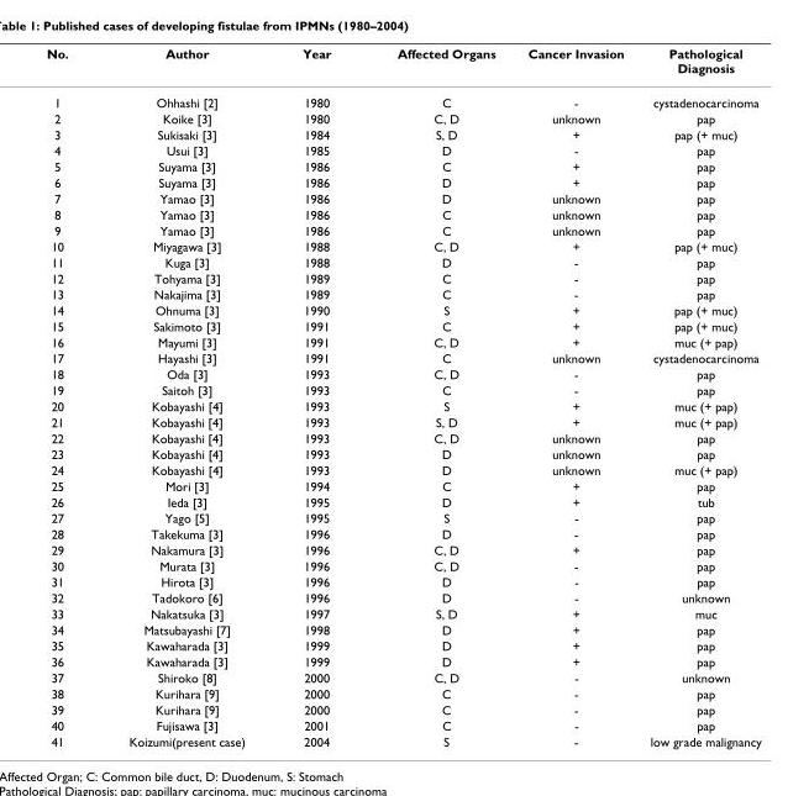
<table><thead><tr><td>No.</td><td>Author</td><td>Year</td><td>Affected Organs</td><td>Cancer Invasion</td><td>Pathological Diagnosis</td></tr></thead><tbody><tr><td>1</td><td>Ohhashi [2]</td><td>1980</td><td>C</td><td>-</td><td>cystadenocarcinoma</td></tr><tr><td>2</td><td>Koike [3]</td><td>1980</td><td>C, D</td><td>unknown</td><td>pap</td></tr><tr><td>3</td><td>Sukisaki [3]</td><td>1984</td><td>S, D</td><td>+</td><td>pap (+ muc)</td></tr><tr><td>4</td><td>Usui [3]</td><td>1985</td><td>D</td><td>-</td><td>pap</td></tr><tr><td>5</td><td>Suyama [3]</td><td>1986</td><td>C</td><td>+</td><td>pap</td></tr><tr><td>6</td><td>Suyama [3]</td><td>1986</td><td>D</td><td>+</td><td>pap</td></tr><tr><td>7</td><td>Yamao [3]</td><td>1986</td><td>D</td><td>unknown</td><td>pap</td></tr><tr><td>8</td><td>Yamao [3]</td><td>1986</td><td>C</td><td>unknown</td><td>pap</td></tr><tr><td>9</td><td>Yamao [3]</td><td>1986</td><td>C</td><td>unknown</td><td>pap</td></tr><tr><td>10</td><td>Miyagawa [3]</td><td>1988</td><td>C, D</td><td>+</td><td>pap (+ muc)</td></tr><tr><td>11</td><td>Kuga [3]</td><td>1988</td><td>D</td><td>-</td><td>pap</td></tr><tr><td>12</td><td>Tohyama [3]</td><td>1989</td><td>C</td><td>-</td><td>pap</td></tr><tr><td>13</td><td>Nakajima [3]</td><td>1989</td><td>C</td><td>-</td><td>pap</td></tr><tr><td>14</td><td>Ohnuma [3]</td><td>1990</td><td>S</td><td>+</td><td>pap (+ muc)</td></tr><tr><td>15</td><td>Sakimoto [3]</td><td>1991</td><td>C</td><td>+</td><td>pap (+ muc)</td></tr><tr><td>16</td><td>Mayumi [3]</td><td>1991</td><td>C, D</td><td>+</td><td>muc (+ pap)</td></tr><tr><td>17</td><td>Hayashi [3]</td><td>1991</td><td>C</td><td>unknown</td><td>cystadenocarcinoma</td></tr><tr><td>18</td><td>Oda [3]</td><td>1993</td><td>C, D</td><td>-</td><td>pap</td></tr><tr><td>19</td><td>Saitoh [3]</td><td>1993</td><td>C</td><td>-</td><td>pap</td></tr><tr><td>20</td><td>Kobayashi [4]</td><td>1993</td><td>S</td><td>+</td><td>muc (+ pap)</td></tr><tr><td>21</td><td>Kobayashi [4]</td><td>1993</td><td>S, D</td><td>+</td><td>muc (+ pap)</td></tr><tr><td>22</td><td>Kobayashi [4]</td><td>1993</td><td>C, D</td><td>unknown</td><td>pap</td></tr><tr><td>23</td><td>Kobayashi [4]</td><td>1993</td><td>D</td><td>unknown</td><td>pap</td></tr><tr><td>24</td><td>Kobayashi [4]</td><td>1993</td><td>D</td><td>unknown</td><td>muc (+ pap)</td></tr><tr><td>25</td><td>Mori [3]</td><td>1994</td><td>C</td><td>+</td><td>pap</td></tr><tr><td>26</td><td>Ieda [3]</td><td>1995</td><td>D</td><td>+</td><td>tub</td></tr><tr><td>27</td><td>Yago [5]</td><td>1995</td><td>S</td><td>-</td><td>pap</td></tr><tr><td>28</td><td>Takekuma [3]</td><td>1996</td><td>D</td><td>-</td><td>pap</td></tr><tr><td>29</td><td>Nakamura [3]</td><td>1996</td><td>C, D</td><td>+</td><td>pap</td></tr><tr><td>30</td><td>Murata [3]</td><td>1996</td><td>C, D</td><td>-</td><td>pap</td></tr><tr><td>31</td><td>Hirota [3]</td><td>1996</td><td>D</td><td>-</td><td>pap</td></tr><tr><td>32</td><td>Tadokoro [6]</td><td>1996</td><td>D</td><td>-</td><td>unknown</td></tr><tr><td>33</td><td>Nakatsuka [3]</td><td>1997</td><td>S, D</td><td>+</td><td>muc</td></tr><tr><td>34</td><td>Matsubayashi [7]</td><td>1998</td><td>D</td><td>+</td><td>pap</td></tr><tr><td>35</td><td>Kawaharada [3]</td><td>1999</td><td>D</td><td>+</td><td>pap</td></tr><tr><td>36</td><td>Kawaharada [3]</td><td>1999</td><td>D</td><td>+</td><td>pap</td></tr><tr><td>37</td><td>Shiroko [8]</td><td>2000</td><td>C, D</td><td>-</td><td>unknown</td></tr><tr><td>38</td><td>Kurihara [9]</td><td>2000</td><td>C</td><td>-</td><td>pap</td></tr><tr><td>39</td><td>Kurihara [9]</td><td>2000</td><td>C</td><td>-</td><td>pap</td></tr><tr><td>40</td><td>Fujisawa [3]</td><td>2001</td><td>C</td><td>-</td><td>pap</td></tr><tr><td>41</td><td>Koizumi(present case)</td><td>2004</td><td>S</td><td>-</td><td>low grade malignancy</td></tr></tbody></table>